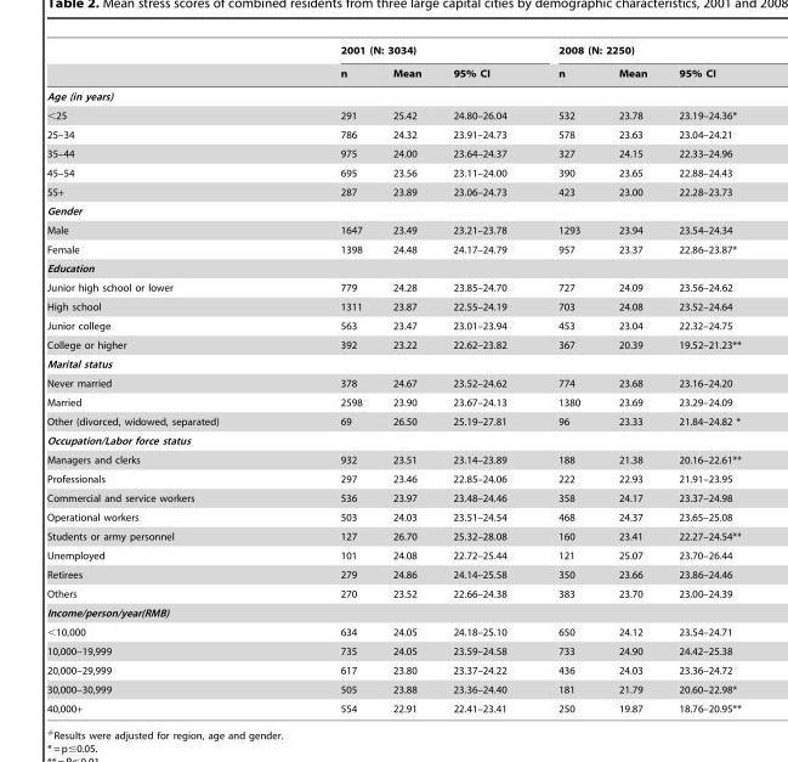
<table><thead><tr><td rowspan="2"></td><td colspan="3">2001 (N: 3034)</td><td colspan="3">2008 (N: 2250)</td></tr><tr><td>n</td><td>Mean</td><td>95% CI</td><td>n</td><td>Mean</td><td>95% CI</td></tr></thead><tbody><tr><td colspan="7">Age (in years)</td></tr><tr><td>&lt;25</td><td>291</td><td>25.42</td><td>24.80–26.04</td><td>532</td><td>23.78</td><td>23.19–24.36*</td></tr><tr><td>25–34</td><td>786</td><td>24.32</td><td>23.91–24.73</td><td>578</td><td>23.63</td><td>23.04–24.21</td></tr><tr><td>35–44</td><td>975</td><td>24.00</td><td>23.64–24.37</td><td>327</td><td>24.15</td><td>22.33–24.96</td></tr><tr><td>45–54</td><td>695</td><td>23.56</td><td>23.11–24.00</td><td>390</td><td>23.65</td><td>22.88–24.43</td></tr><tr><td>55+</td><td>287</td><td>23.89</td><td>23.06–24.73</td><td>423</td><td>23.00</td><td>22.28–23.73</td></tr><tr><td colspan="7">Gender</td></tr><tr><td>Male</td><td>1647</td><td>23.49</td><td>23.21–23.78</td><td>1293</td><td>23.94</td><td>23.54–24.34</td></tr><tr><td>Female</td><td>1398</td><td>24.48</td><td>24.17–24.79</td><td>957</td><td>23.37</td><td>22.86–23.87*</td></tr><tr><td colspan="7">Education</td></tr><tr><td>Junior high school or lower</td><td>779</td><td>24.28</td><td>23.85–24.70</td><td>727</td><td>24.09</td><td>23.56–24.62</td></tr><tr><td>High school</td><td>1311</td><td>23.87</td><td>22.55–24.19</td><td>703</td><td>24.08</td><td>23.52–24.64</td></tr><tr><td>Junior college</td><td>563</td><td>23.47</td><td>23.01–23.94</td><td>453</td><td>23.04</td><td>22.32–24.75</td></tr><tr><td>College or higher</td><td>392</td><td>23.22</td><td>22.62–23.82</td><td>367</td><td>20.39</td><td>19.52–21.23**</td></tr><tr><td colspan="7">Marital status</td></tr><tr><td>Never married</td><td>378</td><td>24.67</td><td>23.52–24.62</td><td>774</td><td>23.68</td><td>23.16–24.20</td></tr><tr><td>Married</td><td>2598</td><td>23.90</td><td>23.67–24.13</td><td>1380</td><td>23.69</td><td>23.29–24.09</td></tr><tr><td>Other (divorced, widowed, separated)</td><td>69</td><td>26.50</td><td>25.19–27.81</td><td>96</td><td>23.33</td><td>21.84–24.82 *</td></tr><tr><td colspan="7">Occupation/Labor force status</td></tr><tr><td>Managers and clerks</td><td>932</td><td>23.51</td><td>23.14–23.89</td><td>188</td><td>21.38</td><td>20.16–22.61**</td></tr><tr><td>Professionals</td><td>297</td><td>23.46</td><td>22.85–24.06</td><td>222</td><td>22.93</td><td>21.91–23.95</td></tr><tr><td>Commercial and service workers</td><td>536</td><td>23.97</td><td>23.48–24.46</td><td>358</td><td>24.17</td><td>23.37–24.98</td></tr><tr><td>Operational workers</td><td>503</td><td>24.03</td><td>23.51–24.54</td><td>468</td><td>24.37</td><td>23.65–25.08</td></tr><tr><td>Students or army personnel</td><td>127</td><td>26.70</td><td>25.32–28.08</td><td>160</td><td>23.41</td><td>22.27–24.54**</td></tr><tr><td>Unemployed</td><td>101</td><td>24.08</td><td>22.72–25.44</td><td>121</td><td>25.07</td><td>23.70–26.44</td></tr><tr><td>Retirees</td><td>279</td><td>24.86</td><td>24.14–25.58</td><td>350</td><td>23.66</td><td>23.86–24.46</td></tr><tr><td>Others</td><td>270</td><td>23.52</td><td>22.66–24.38</td><td>383</td><td>23.70</td><td>23.00–24.39</td></tr><tr><td colspan="7">Income/person/year(RMB)</td></tr><tr><td>&lt;10,000</td><td>634</td><td>24.05</td><td>24.18–25.10</td><td>650</td><td>24.12</td><td>23.54–24.71</td></tr><tr><td>10,000–19,999</td><td>735</td><td>24.05</td><td>23.59–24.58</td><td>733</td><td>24.90</td><td>24.42–25.38</td></tr><tr><td>20,000–29,999</td><td>617</td><td>23.80</td><td>23.37–24.22</td><td>436</td><td>24.03</td><td>23.36–24.72</td></tr><tr><td>30,000–30,999</td><td>505</td><td>23.88</td><td>23.36–24.40</td><td>181</td><td>21.79</td><td>20.60–22.98*</td></tr><tr><td>40,000+</td><td>554</td><td>22.91</td><td>22.41–23.41</td><td>250</td><td>19.87</td><td>18.76–20.95**</td></tr></tbody></table>